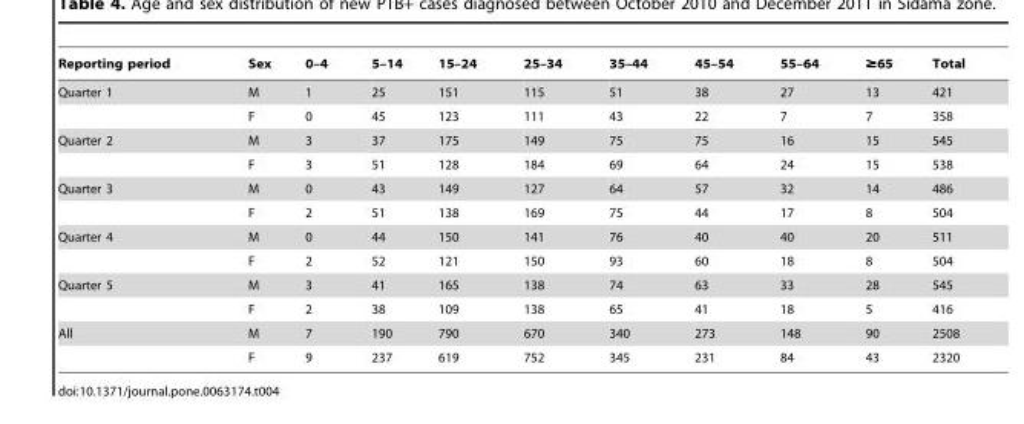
<table><thead><tr><td>Reporting period</td><td>Sex</td><td>0–4</td><td>5–14</td><td>15–24</td><td>25–34</td><td>35–44</td><td>45–54</td><td>55–64</td><td>≥65</td><td>Total</td></tr></thead><tbody><tr><td rowspan="2">Quarter 1</td><td>M</td><td>1</td><td>25</td><td>151</td><td>115</td><td>51</td><td>38</td><td>27</td><td>13</td><td>421</td></tr><tr><td>F</td><td>0</td><td>45</td><td>123</td><td>111</td><td>43</td><td>22</td><td>7</td><td>7</td><td>358</td></tr><tr><td rowspan="2">Quarter 2</td><td>M</td><td>3</td><td>37</td><td>175</td><td>149</td><td>75</td><td>75</td><td>16</td><td>15</td><td>545</td></tr><tr><td>F</td><td>3</td><td>51</td><td>128</td><td>184</td><td>69</td><td>64</td><td>24</td><td>15</td><td>538</td></tr><tr><td rowspan="2">Quarter 3</td><td>M</td><td>0</td><td>43</td><td>149</td><td>127</td><td>64</td><td>57</td><td>32</td><td>14</td><td>486</td></tr><tr><td>F</td><td>2</td><td>51</td><td>138</td><td>169</td><td>75</td><td>44</td><td>17</td><td>8</td><td>504</td></tr><tr><td rowspan="2">Quarter 4</td><td>M</td><td>0</td><td>44</td><td>150</td><td>141</td><td>76</td><td>40</td><td>40</td><td>20</td><td>511</td></tr><tr><td>F</td><td>2</td><td>52</td><td>121</td><td>150</td><td>93</td><td>60</td><td>18</td><td>8</td><td>504</td></tr><tr><td rowspan="2">Quarter 5</td><td>M</td><td>3</td><td>41</td><td>165</td><td>138</td><td>74</td><td>63</td><td>33</td><td>28</td><td>545</td></tr><tr><td>F</td><td>2</td><td>38</td><td>109</td><td>138</td><td>65</td><td>41</td><td>18</td><td>5</td><td>416</td></tr><tr><td rowspan="2">All</td><td>M</td><td>7</td><td>190</td><td>790</td><td>670</td><td>340</td><td>273</td><td>148</td><td>90</td><td>2508</td></tr><tr><td>F</td><td>9</td><td>237</td><td>619</td><td>752</td><td>345</td><td>231</td><td>84</td><td>43</td><td>2320</td></tr></tbody></table>